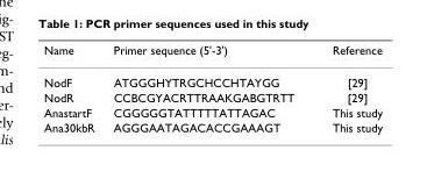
<table><thead><tr><td>Name</td><td>Primer sequence (5&#x27;-3&#x27;)</td><td>Reference</td></tr></thead><tbody><tr><td>NodF</td><td>ATGGGHYTRGCHCCHTAYGG</td><td>[29]</td></tr><tr><td>NodR</td><td>CCBCGYACRTTRAAKGABGTRTT</td><td>[29]</td></tr><tr><td>AnastartF</td><td>CGGGGGTATTTTTATTAGAC</td><td>This study</td></tr><tr><td>Ana30kbR</td><td>AGGGAATAGACACCGAAAGT</td><td>This study</td></tr></tbody></table>